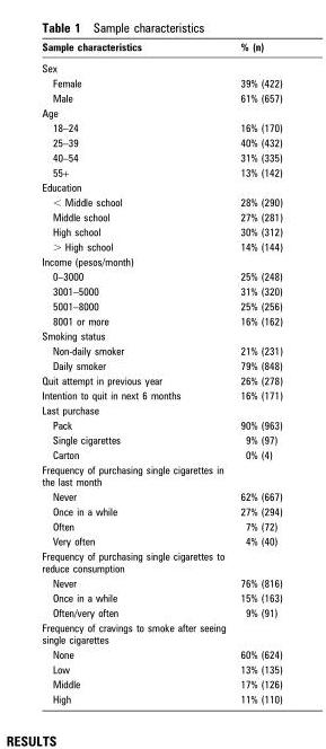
<table><thead><tr><td>Sample characteristics</td><td>% (n)</td></tr></thead><tbody><tr><td colspan="2">Sex</td></tr><tr><td>Female</td><td>39% (422)</td></tr><tr><td>Male</td><td>61% (657)</td></tr><tr><td colspan="2">Age</td></tr><tr><td>18–24</td><td>16% (170)</td></tr><tr><td>25–39</td><td>40% (432)</td></tr><tr><td>40–54</td><td>31% (335)</td></tr><tr><td>55+</td><td>13% (142)</td></tr><tr><td colspan="2">Education</td></tr><tr><td>&lt; Middle school</td><td>28% (290)</td></tr><tr><td>Middle school</td><td>27% (281)</td></tr><tr><td>High school</td><td>30% (312)</td></tr><tr><td>&gt; High school</td><td>14% (144)</td></tr><tr><td colspan="2">Income (pesos/month)</td></tr><tr><td>0–3000</td><td>25% (248)</td></tr><tr><td>3001–5000</td><td>31% (320)</td></tr><tr><td>5001–8000</td><td>25% (256)</td></tr><tr><td>8001 or more</td><td>16% (162)</td></tr><tr><td colspan="2">Smoking status</td></tr><tr><td>Non-daily smoker</td><td>21% (231)</td></tr><tr><td>Daily smoker</td><td>79% (848)</td></tr><tr><td>Quit attempt in previous year</td><td>26% (278)</td></tr><tr><td>Intention to quit in next 6 months</td><td>16% (171)</td></tr><tr><td colspan="2">Last purchase</td></tr><tr><td>Pack</td><td>90% (963)</td></tr><tr><td>Single cigarettes</td><td>9% (97)</td></tr><tr><td>Carton</td><td>0% (4)</td></tr><tr><td colspan="2">Frequency of purchasing single cigarettes in the last month</td></tr><tr><td>Never</td><td>62% (667)</td></tr><tr><td>Once in a while</td><td>27% (294)</td></tr><tr><td>Often</td><td>7% (72)</td></tr><tr><td>Very often</td><td>4% (40)</td></tr><tr><td colspan="2">Frequency of purchasing single cigarettes to reduce consumption</td></tr><tr><td>Never</td><td>76% (816)</td></tr><tr><td>Once in a while</td><td>15% (163)</td></tr><tr><td>Often/very often</td><td>9% (91)</td></tr><tr><td colspan="2">Frequency of cravings to smoke after seeing single cigarettes</td></tr><tr><td>None</td><td>60% (624)</td></tr><tr><td>Low</td><td>13% (135)</td></tr><tr><td>Middle</td><td>17% (126)</td></tr><tr><td>High</td><td>11% (110)</td></tr></tbody></table>